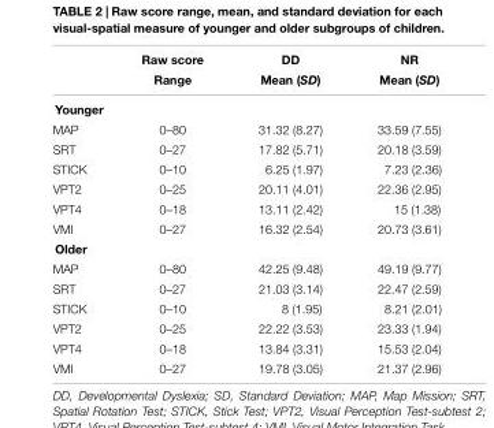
<table><thead><tr><td rowspan="2"></td><td rowspan="2">Raw score Range</td><td rowspan="2">DD Mean (SD)</td><td rowspan="2">NR Mean (SD)</td></tr><tr></tr></thead><tbody><tr><td colspan="4">Younger</td></tr><tr><td>MAP</td><td>0–80</td><td>31.32 (8.27)</td><td>33.59 (7.55)</td></tr><tr><td>SRT</td><td>0–27</td><td>17.82 (5.71)</td><td>20.18 (3.59)</td></tr><tr><td>STICK</td><td>0–10</td><td>6.25 (1.97)</td><td>7.23 (2.36)</td></tr><tr><td>VPT2</td><td>0–25</td><td>20.11 (4.01)</td><td>22.36 (2.95)</td></tr><tr><td>VPT4</td><td>0–18</td><td>13.11 (2.42)</td><td>15 (1.38)</td></tr><tr><td>VMI</td><td>0–27</td><td>16.32 (2.54)</td><td>20.73 (3.61)</td></tr><tr><td colspan="4">Older</td></tr><tr><td>MAP</td><td>0–80</td><td>42.25 (9.48)</td><td>49.19 (9.77)</td></tr><tr><td>SRT</td><td>0–27</td><td>21.03 (3.14)</td><td>22.47 (2.59)</td></tr><tr><td>STICK</td><td>0–10</td><td>8 (1.95)</td><td>8.21 (2.01)</td></tr><tr><td>VPT2</td><td>0–25</td><td>22.22 (3.53)</td><td>23.33 (1.94)</td></tr><tr><td>VPT4</td><td>0–18</td><td>13.84 (3.31)</td><td>15.53 (2.04)</td></tr><tr><td>VMI</td><td>0–27</td><td>19.78 (3.05)</td><td>21.37 (2.96)</td></tr></tbody></table>